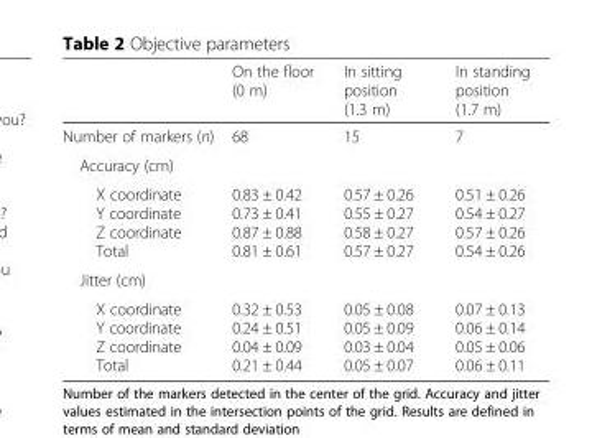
<table><thead><tr><td></td><td>On the floor (0 m)</td><td>In sitting position (1.3 m)</td><td>In standing position (1.7 m)</td></tr></thead><tbody><tr><td>Number of markers (n)</td><td>68</td><td>15</td><td>7</td></tr><tr><td colspan="4">Accuracy (cm)</td></tr><tr><td>X coordinate Y coordinate Z coordinate Total</td><td>0.83 ± 0.42 0.73 ± 0.41 0.87 ± 0.88 0.81 ± 0.61</td><td>0.57 ± 0.26 0.55 ± 0.27 0.58 ± 0.27 0.57 ± 0.27</td><td>0.51 ± 0.26 0.54 ± 0.27 0.57 ± 0.26 0.54 ± 0.26</td></tr><tr><td colspan="4">Jitter (cm)</td></tr><tr><td>X coordinate Y coordinate Z coordinate Total</td><td>0.32 ± 0.53 0.24 ± 0.51 0.04 ± 0.09 0.21 ± 0.44</td><td>0.05 ± 0.08 0.05 ± 0.09 0.03 ± 0.04 0.05 ± 0.07</td><td>0.07 ± 0.13 0.06 ± 0.14 0.05 ± 0.06 0.06 ± 0.11</td></tr></tbody></table>